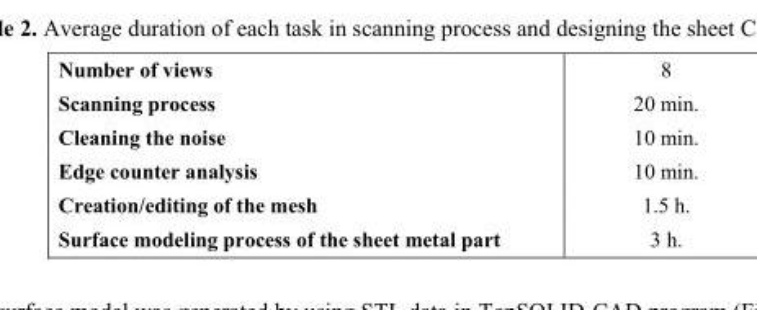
<table><tbody><tr><td>Number of views</td><td>8</td></tr><tr><td>Scanning process</td><td>20 min.</td></tr><tr><td>Cleaning the noise</td><td>10 min.</td></tr><tr><td>Edge counter analysis</td><td>10 min.</td></tr><tr><td>Creation/editing of the mesh</td><td>1.5 h.</td></tr><tr><td>Surface modeling process of the sheet metal part</td><td>3 h.</td></tr></tbody></table>